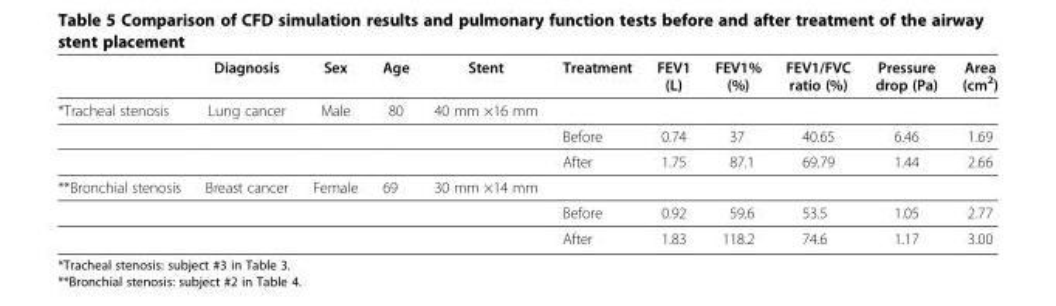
<table><thead><tr><td></td><td>Diagnosis</td><td>Sex</td><td>Age</td><td>Stent</td><td>Treatment</td><td>FEV1 (L)</td><td>FEV1% (%)</td><td>FEV1/FVC ratio (%)</td><td>Pressure drop (Pa)</td><td>Area (cm<sup>2</sup>)</td></tr></thead><tbody><tr><td rowspan="3">*Tracheal stenosis</td><td>Lung cancer</td><td>Male</td><td>80</td><td>40 mm ×16 mm</td><td></td><td></td><td></td><td></td><td></td><td></td></tr><tr><td></td><td></td><td></td><td></td><td>Before</td><td>0.74</td><td>37</td><td>40.65</td><td>6.46</td><td>1.69</td></tr><tr><td></td><td></td><td></td><td></td><td>After</td><td>1.75</td><td>87.1</td><td>69.79</td><td>1.44</td><td>2.66</td></tr><tr><td rowspan="3">**Bronchial stenosis</td><td>Breast cancer</td><td>Female</td><td>69</td><td>30 mm ×14 mm</td><td></td><td></td><td></td><td></td><td></td><td></td></tr><tr><td></td><td></td><td></td><td></td><td>Before</td><td>0.92</td><td>59.6</td><td>53.5</td><td>1.05</td><td>2.77</td></tr><tr><td></td><td></td><td></td><td></td><td>After</td><td>1.83</td><td>118.2</td><td>74.6</td><td>1.17</td><td>3.00</td></tr></tbody></table>